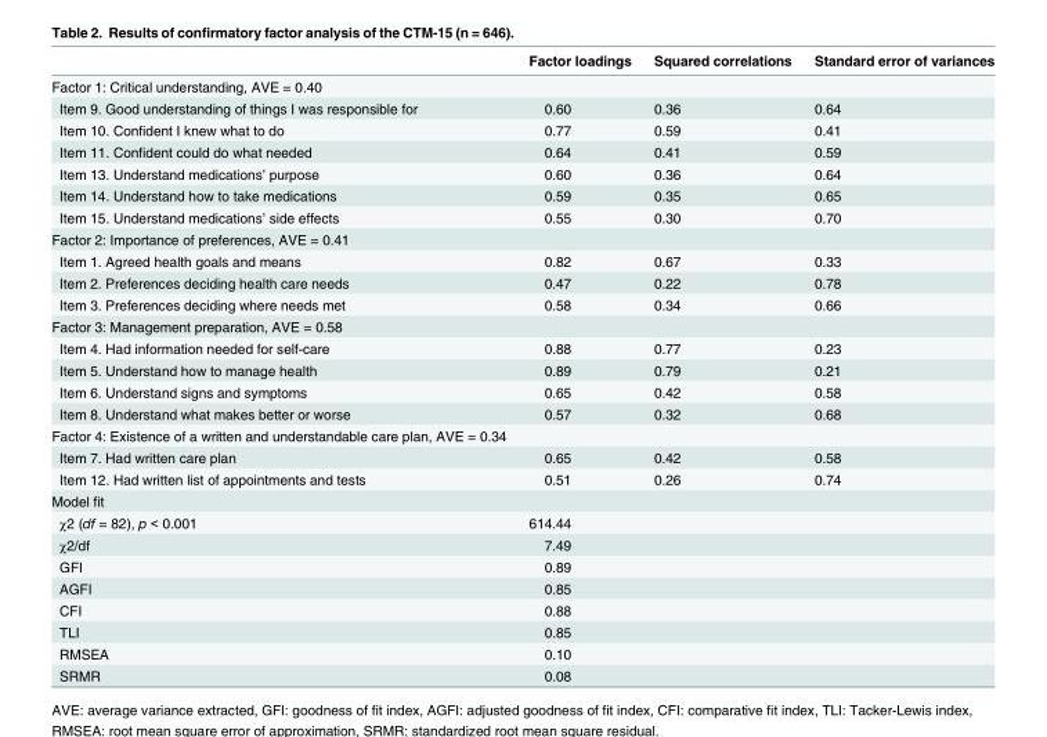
<table><thead><tr><td></td><td>Factor loadings</td><td>Squared correlations</td><td>Standard error of variances</td></tr></thead><tbody><tr><td colspan="4">Factor 1: Critical understanding, AVE = 0.40</td></tr><tr><td>Item 9. Good understanding of things I was responsible for</td><td>0.60</td><td>0.36</td><td>0.64</td></tr><tr><td>Item 10. Confident I knew what to do</td><td>0.77</td><td>0.59</td><td>0.41</td></tr><tr><td>Item 11. Confident could do what needed</td><td>0.64</td><td>0.41</td><td>0.59</td></tr><tr><td>Item 13. Understand medications’ purpose</td><td>0.60</td><td>0.36</td><td>0.64</td></tr><tr><td>Item 14. Understand how to take medications</td><td>0.59</td><td>0.35</td><td>0.65</td></tr><tr><td>Item 15. Understand medications’ side effects</td><td>0.55</td><td>0.30</td><td>0.70</td></tr><tr><td colspan="4">Factor 2: Importance of preferences, AVE = 0.41</td></tr><tr><td>Item 1. Agreed health goals and means</td><td>0.82</td><td>0.67</td><td>0.33</td></tr><tr><td>Item 2. Preferences deciding health care needs</td><td>0.47</td><td>0.22</td><td>0.78</td></tr><tr><td>Item 3. Preferences deciding where needs met</td><td>0.58</td><td>0.34</td><td>0.66</td></tr><tr><td colspan="4">Factor 3: Management preparation, AVE = 0.58</td></tr><tr><td>Item 4. Had information needed for self-care</td><td>0.88</td><td>0.77</td><td>0.23</td></tr><tr><td>Item 5. Understand how to manage health</td><td>0.89</td><td>0.79</td><td>0.21</td></tr><tr><td>Item 6. Understand signs and symptoms</td><td>0.65</td><td>0.42</td><td>0.58</td></tr><tr><td>Item 8. Understand what makes better or worse</td><td>0.57</td><td>0.32</td><td>0.68</td></tr><tr><td colspan="4">Factor 4: Existence of a written and understandable care plan, AVE = 0.34</td></tr><tr><td>Item 7. Had written care plan</td><td>0.65</td><td>0.42</td><td>0.58</td></tr><tr><td>Item 12. Had written list of appointments and tests</td><td>0.51</td><td>0.26</td><td>0.74</td></tr><tr><td colspan="4">Model fit</td></tr><tr><td>χ2 (df = 82), p &lt; 0.001</td><td>614.44</td><td></td><td></td></tr><tr><td>χ2/df</td><td>7.49</td><td></td><td></td></tr><tr><td>GFI</td><td>0.89</td><td></td><td></td></tr><tr><td>AGFI</td><td>0.85</td><td></td><td></td></tr><tr><td>CFI</td><td>0.88</td><td></td><td></td></tr><tr><td>TLI</td><td>0.85</td><td></td><td></td></tr><tr><td>RMSEA</td><td>0.10</td><td></td><td></td></tr><tr><td>SRMR</td><td>0.08</td><td></td><td></td></tr></tbody></table>